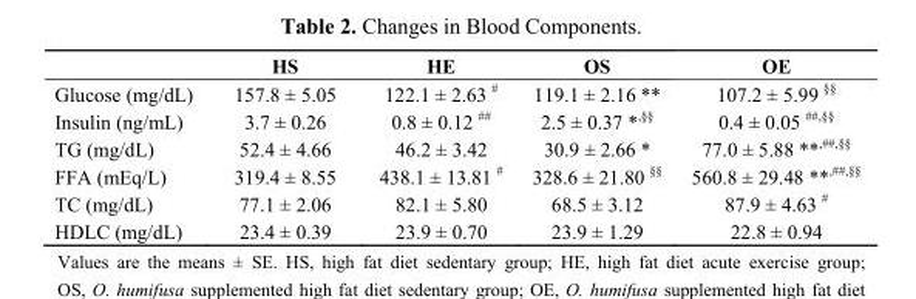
<table><thead><tr><td></td><td>HS</td><td>HE</td><td>OS</td><td>OE</td></tr></thead><tbody><tr><td>Glucose (mg/dL)</td><td>157.8 ± 5.05</td><td>122.1 ± 2.63 #</td><td>119.1 ± 2.16 **</td><td>107.2 ± 5.99 §§</td></tr><tr><td>Insulin (ng/mL)</td><td>3.7 ± 0.26</td><td>0.8 ± 0.12 ##</td><td>2.5 ± 0.37 *,§§</td><td>0.4 ± 0.05 ##,§§</td></tr><tr><td>TG (mg/dL)</td><td>52.4 ± 4.66</td><td>46.2 ± 3.42</td><td>30.9 ± 2.66 *</td><td>77.0 ± 5.88 **,##,§§</td></tr><tr><td>FFA (mEq/L)</td><td>319.4 ± 8.55</td><td>438.1 ± 13.81 #</td><td>328.6 ± 21.80 §§</td><td>560.8 ± 29.48 **,##,§§</td></tr><tr><td>TC (mg/dL)</td><td>77.1 ± 2.06</td><td>82.1 ± 5.80</td><td>68.5 ± 3.12</td><td>87.9 ± 4.63 #</td></tr><tr><td>HDLC (mg/dL)</td><td>23.4 ± 0.39</td><td>23.9 ± 0.70</td><td>23.9 ± 1.29</td><td>22.8 ± 0.94</td></tr></tbody></table>